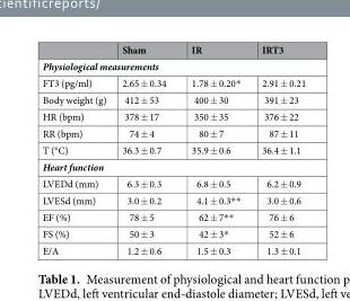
<table><thead><tr><td></td><td>Sham</td><td>IR</td><td>IRT3</td></tr></thead><tbody><tr><td colspan="4">Physiological measurements</td></tr><tr><td>FT3 (pg/ml)</td><td>2.65 ± 0.34</td><td>1.78 ± 0.20*</td><td>2.91 ± 0.21</td></tr><tr><td>Body weight (g)</td><td>412 ± 53</td><td>400 ± 30</td><td>391 ± 23</td></tr><tr><td>HR (bpm)</td><td>378 ± 17</td><td>350 ± 35</td><td>376 ± 22</td></tr><tr><td>RR (bpm)</td><td>74 ± 4</td><td>80 ± 7</td><td>87 ± 11</td></tr><tr><td>T (°C)</td><td>36.3 ± 0.7</td><td>35.9 ± 0.6</td><td>36.4 ± 1.1</td></tr><tr><td colspan="4">Heart function</td></tr><tr><td>LVEDd (mm)</td><td>6.3 ± 0.3</td><td>6.8 ± 0.5</td><td>6.2 ± 0.9</td></tr><tr><td>LVESd (mm)</td><td>3.0 ± 0.2</td><td>4.1 ± 0.3**</td><td>3.0 ± 0.6</td></tr><tr><td>EF (%)</td><td>78 ± 5</td><td>62 ± 7**</td><td>76 ± 6</td></tr><tr><td>FS (%)</td><td>50 ± 3</td><td>42 ± 3*</td><td>52 ± 6</td></tr><tr><td>E/A</td><td>1.2 ± 0.6</td><td>1.5 ± 0.3</td><td>1.3 ± 0.1</td></tr></tbody></table>